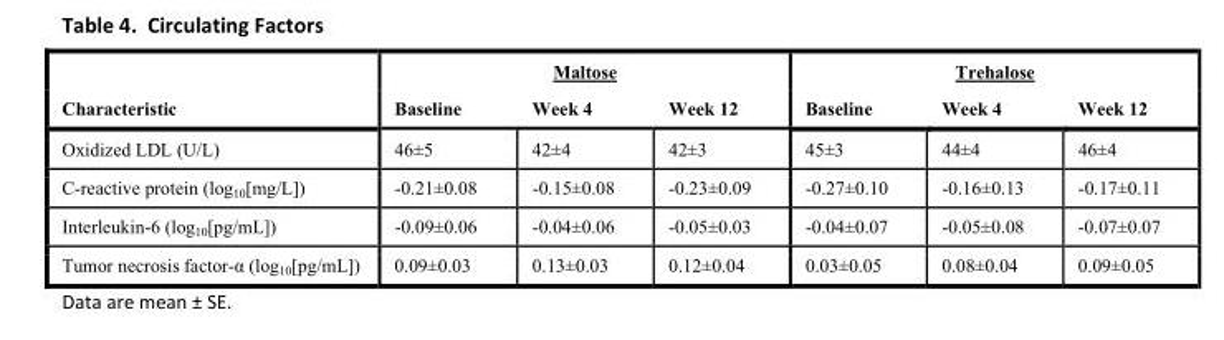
<table><thead><tr><td rowspan="2">Characteristic</td><td colspan="3">Maltose</td><td colspan="3">Trehalose</td></tr><tr><td>Baseline</td><td>Week 4</td><td>Week 12</td><td>Baseline</td><td>Week 4</td><td>Week 12</td></tr></thead><tbody><tr><td>Oxidized LDL (U/L)</td><td>46±5</td><td>42±4</td><td>42±3</td><td>45±3</td><td>44±4</td><td>46±4</td></tr><tr><td>C-reactive protein (log<sub>10</sub>[mg/L])</td><td>-0.21±0.08</td><td>-0.15±0.08</td><td>-0.23±0.09</td><td>-0.27±0.10</td><td>-0.16±0.13</td><td>-0.17±0.11</td></tr><tr><td>Interleukin-6 (log<sub>10</sub>[pg/mL])</td><td>-0.09±0.06</td><td>-0.04±0.06</td><td>-0.05±0.03</td><td>-0.04±0.07</td><td>-0.05±0.08</td><td>-0.07±0.07</td></tr><tr><td>Tumor necrosis factor-α (log<sub>10</sub>[pg/mL])</td><td>0.09±0.03</td><td>0.13±0.03</td><td>0.12±0.04</td><td>0.03±0.05</td><td>0.08±0.04</td><td>0.09±0.05</td></tr></tbody></table>